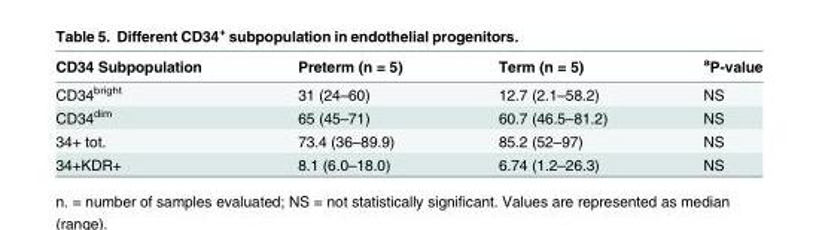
<table><thead><tr><td>CD34 Subpopulation</td><td>Preterm (n = 5)</td><td>Term (n = 5)</td><td><sup>a</sup>P-value</td></tr></thead><tbody><tr><td>CD34<sup>bright</sup></td><td>31 (24–60)</td><td>12.7 (2.1–58.2)</td><td>NS</td></tr><tr><td>CD34<sup>dim</sup></td><td>65 (45–71)</td><td>60.7 (46.5–81.2)</td><td>NS</td></tr><tr><td>34+ tot.</td><td>73.4 (36–89.9)</td><td>85.2 (52–97)</td><td>NS</td></tr><tr><td>34+KDR+</td><td>8.1 (6.0–18.0)</td><td>6.74 (1.2–26.3)</td><td>NS</td></tr></tbody></table>